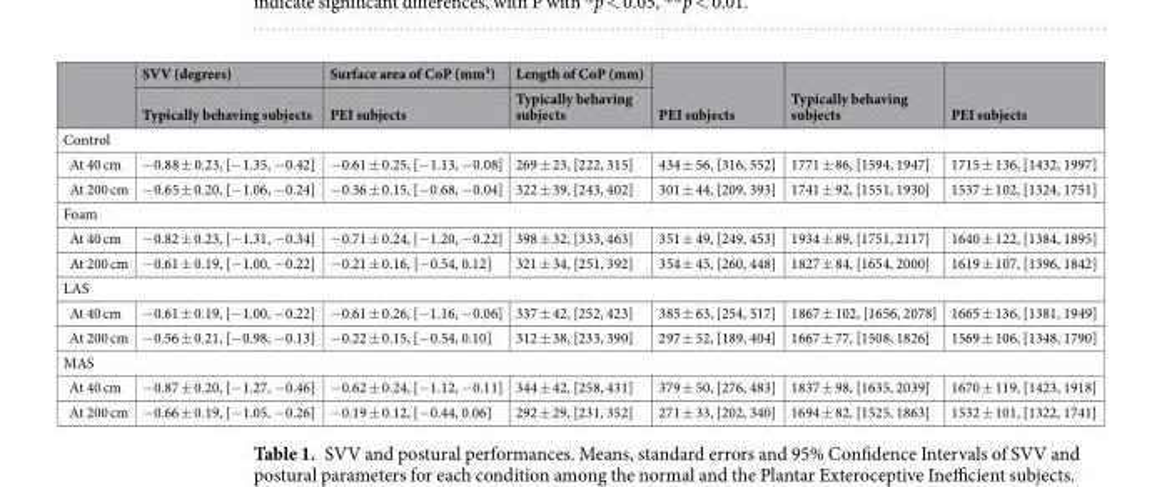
<table><thead><tr><td rowspan="2"></td><td rowspan="2">SVV (degrees) Typically behaving subjects</td><td rowspan="2">Surface area of CoP (mm²) PEI subjects</td><td rowspan="2">Length of CoP (mm) Typically behaving subjects</td><td rowspan="2">PEI subjects</td><td rowspan="2">Typically behaving subjects</td><td rowspan="2">PEI subjects</td></tr><tr></tr></thead><tbody><tr><td colspan="7">Control</td></tr><tr><td>At 40 cm</td><td>−0.88 ± 0.23, [−1.35, −0.42]</td><td>−0.61 ± 0.25, [−1.13, −0.08]</td><td>269 ± 23, [222, 315]</td><td>434 ± 56, [316, 552]</td><td>1771 ± 86, [1594, 1947]</td><td>1715 ± 136, [1432, 1997]</td></tr><tr><td>At 200 cm</td><td>−0.65 ± 0.20, [−1.06, −0.24]</td><td>−0.36 ± 0.15, [−0.68, −0.04]</td><td>322 ± 39, [243, 402]</td><td>301 ± 44, [209, 393]</td><td>1741 ± 92, [1551, 1930]</td><td>1537 ± 102, [1324, 1751]</td></tr><tr><td colspan="7">Foam</td></tr><tr><td>At 40 cm</td><td>−0.82 ± 0.23, [−1.31, −0.34]</td><td>−0.71 ± 0.24, [−1.20, −0.22]</td><td>398 ± 32, [333, 463]</td><td>351 ± 49, [249, 453]</td><td>1934 ± 89, [1751, 2117]</td><td>1640 ± 122, [1384, 1895]</td></tr><tr><td>At 200 cm</td><td>−0.61 ± 0.19, [−1.00, −0.22]</td><td>−0.21 ± 0.16, [−0.54, 0.12]</td><td>321 ± 34, [251, 392]</td><td>354 ± 45, [260, 448]</td><td>1827 ± 84, [1654, 2000]</td><td>1619 ± 107, [1396, 1842]</td></tr><tr><td colspan="7">LAS</td></tr><tr><td>At 40 cm</td><td>−0.61 ± 0.19, [−1.00, −0.22]</td><td>−0.61 ± 0.26, [−1.16, −0.06]</td><td>337 ± 42, [252, 423]</td><td>385 ± 63, [254, 517]</td><td>1867 ± 102, [1656, 2078]</td><td>1665 ± 136, [1381, 1949]</td></tr><tr><td>At 200 cm</td><td>−0.56 ± 0.21, [−0.98, −0.13]</td><td>−0.22 ± 0.15, [−0.54, 0.10]</td><td>312 ± 38, [233, 390]</td><td>297 ± 52, [189, 404]</td><td>1667 ± 77, [1508, 1826]</td><td>1569 ± 106, [1348, 1790]</td></tr><tr><td colspan="7">MAS</td></tr><tr><td>At 40 cm</td><td>−0.87 ± 0.20, [−1.27, −0.46]</td><td>−0.62 ± 0.24, [−1.12, −0.11]</td><td>344 ± 42, [258, 431]</td><td>379 ± 50, [276, 483]</td><td>1837 ± 98, [1635, 2039]</td><td>1670 ± 119, [1423, 1918]</td></tr><tr><td>At 200 cm</td><td>−0.66 ± 0.19, [−1.05, −0.26]</td><td>−0.19 ± 0.12, [−0.44, 0.06]</td><td>292 ± 29, [231, 352]</td><td>271 ± 33, [202, 340]</td><td>1694 ± 82, [1525, 1863]</td><td>1532 ± 101, [1322, 1741]</td></tr></tbody></table>